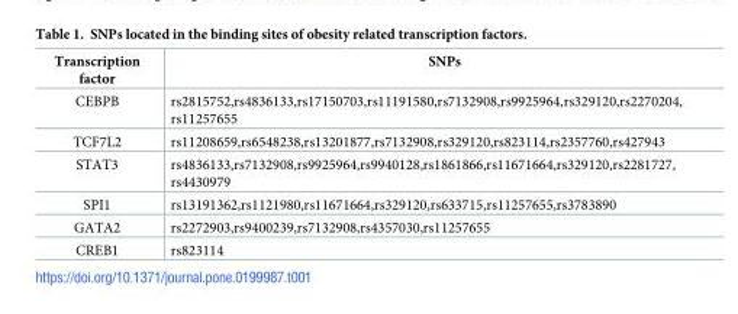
<table><thead><tr><td>Transcription factor</td><td>SNPs</td></tr></thead><tbody><tr><td>CEBPB</td><td>rs2815752,rs4836133,rs17150703,rs11191580,rs7132908,rs9925964,rs329120,rs2270204, rs11257655</td></tr><tr><td>TCF7L2</td><td>rs11208659,rs6548238,rs13201877,rs7132908,rs329120,rs823114,rs2357760,rs427943</td></tr><tr><td>STAT3</td><td>rs4836133,rs7132908,rs9925964,rs9940128,rs1861866,rs11671664,rs329120,rs2281727, rs4430979</td></tr><tr><td>SPI1</td><td>rs13191362,rs1121980,rs11671664,rs329120,rs633715,rs11257655,rs3783890</td></tr><tr><td>GATA2</td><td>rs2272903,rs9400239,rs7132908,rs4357030,rs11257655</td></tr><tr><td>CREB1</td><td>rs823114</td></tr></tbody></table>